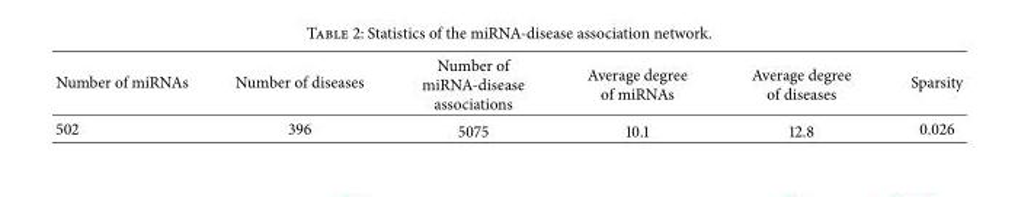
<table><tbody><tr><td>Number of miRNAs</td><td>Number of diseases</td><td>Number of miRNA-disease associations</td><td>Average degree of miRNAs</td><td>Average degree of diseases</td><td>Sparsity</td></tr><tr><td>502</td><td>396</td><td>5075</td><td>10.1</td><td>12.8</td><td>0.026</td></tr></tbody></table>